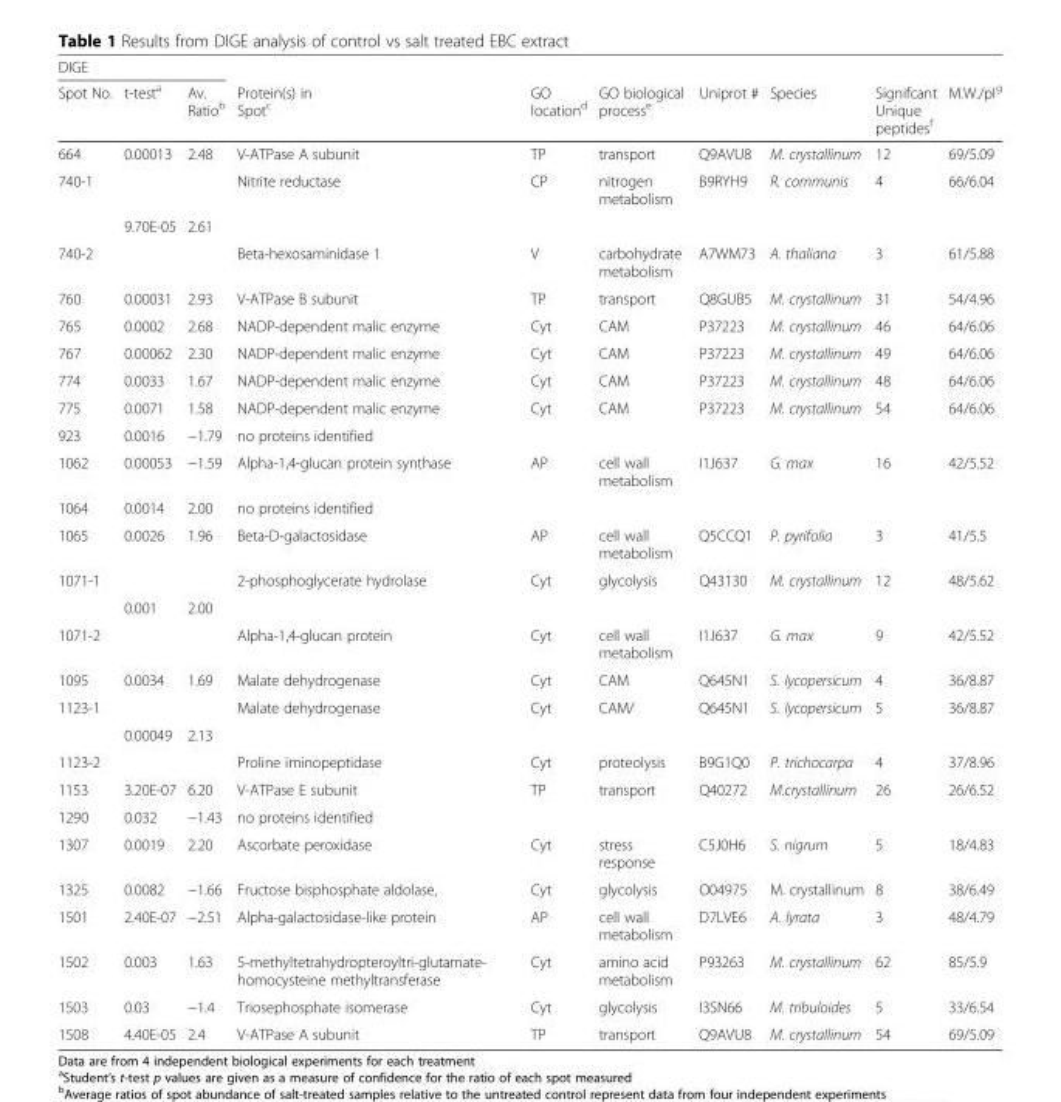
<table><thead><tr><td colspan="3">DIGE</td><td rowspan="2">Protein(s) in Spot<sup>c</sup></td><td rowspan="2">GO location<sup>d</sup></td><td rowspan="2">GO biological process<sup>e</sup></td><td rowspan="2">Uniprot #</td><td rowspan="2">Species</td><td rowspan="2">Signifcant Unique peptides<sup>f</sup></td><td rowspan="2">M.W./pI<sup>g</sup></td></tr><tr><td>Spot No.</td><td>t-test<sup>a</sup></td><td>Av. Ratio<sup>b</sup></td></tr></thead><tbody><tr><td>664</td><td>0.00013</td><td>2.48</td><td>V-ATPase A subunit</td><td>TP</td><td>transport</td><td>Q9AVU8</td><td>M. crystallinum</td><td>12</td><td>69/5.09</td></tr><tr><td rowspan="2">740-1</td><td></td><td></td><td>Nitrite reductase</td><td>CP</td><td>nitrogen metabolism</td><td>B9RYH9</td><td>R. communis</td><td>4</td><td>66/6.04</td></tr><tr><td>9.70E-05</td><td>2.61</td><td></td><td></td><td></td><td></td><td></td><td></td><td></td></tr><tr><td>740-2</td><td></td><td></td><td>Beta-hexosaminidase 1</td><td>V</td><td>carbohydrate metabolism</td><td>A7WM73</td><td>A. thaliana</td><td>3</td><td>61/5.88</td></tr><tr><td>760</td><td>0.00031</td><td>2.93</td><td>V-ATPase B subunit</td><td>TP</td><td>transport</td><td>Q8GUB5</td><td>M. crystallinum</td><td>31</td><td>54/4.96</td></tr><tr><td>765</td><td>0.0002</td><td>2.68</td><td>NADP-dependent malic enzyme</td><td>Cyt</td><td>CAM</td><td>P37223</td><td>M. crystallinum</td><td>46</td><td>64/6.06</td></tr><tr><td>767</td><td>0.00062</td><td>2.30</td><td>NADP-dependent malic enzyme</td><td>Cyt</td><td>CAM</td><td>P37223</td><td>M. crystallinum</td><td>49</td><td>64/6.06</td></tr><tr><td>774</td><td>0.0033</td><td>1.67</td><td>NADP-dependent malic enzyme</td><td>Cyt</td><td>CAM</td><td>P37223</td><td>M. crystallinum</td><td>48</td><td>64/6.06</td></tr><tr><td>775</td><td>0.0071</td><td>1.58</td><td>NADP-dependent malic enzyme</td><td>Cyt</td><td>CAM</td><td>P37223</td><td>M. crystallinum</td><td>54</td><td>64/6.06</td></tr><tr><td>923</td><td>0.0016</td><td>−1.79</td><td>no proteins identified</td><td></td><td></td><td></td><td></td><td></td><td></td></tr><tr><td>1062</td><td>0.00053</td><td>−1.59</td><td>Alpha-1,4-glucan protein synthase</td><td>AP</td><td>cell wall metabolism</td><td>I1J637</td><td>G. max</td><td>16</td><td>42/5.52</td></tr><tr><td>1064</td><td>0.0014</td><td>2.00</td><td>no proteins identified</td><td></td><td></td><td></td><td></td><td></td><td></td></tr><tr><td>1065</td><td>0.0026</td><td>1.96</td><td>Beta-D-galactosidase</td><td>AP</td><td>cell wall metabolism</td><td>Q5CCQ1</td><td>P. pyrifolia</td><td>3</td><td>41/5.5</td></tr><tr><td rowspan="2">1071-1</td><td></td><td></td><td>2-phosphoglycerate hydrolase</td><td>Cyt</td><td>glycolysis</td><td>Q43130</td><td>M. crystallinum</td><td>12</td><td>48/5.62</td></tr><tr><td>0.001</td><td>2.00</td><td></td><td></td><td></td><td></td><td></td><td></td><td></td></tr><tr><td>1071-2</td><td></td><td></td><td>Alpha-1,4-glucan protein</td><td>Cyt</td><td>cell wall metabolism</td><td>I1J637</td><td>G. max</td><td>9</td><td>42/5.52</td></tr><tr><td>1095</td><td>0.0034</td><td>1.69</td><td>Malate dehydrogenase</td><td>Cyt</td><td>CAM</td><td>Q645N1</td><td>S. lycopersicum</td><td>4</td><td>36/8.87</td></tr><tr><td rowspan="2">1123-1</td><td></td><td></td><td>Malate dehydrogenase</td><td>Cyt</td><td>CAM/</td><td>Q645N1</td><td>S. lycopersicum</td><td>5</td><td>36/8.87</td></tr><tr><td>0.00049</td><td>2.13</td><td></td><td></td><td></td><td></td><td></td><td></td><td></td></tr><tr><td>1123-2</td><td></td><td></td><td>Proline iminopeptidase</td><td>Cyt</td><td>proteolysis</td><td>B9G1Q0</td><td>P. trichocarpa</td><td>4</td><td>37/8.96</td></tr><tr><td>1153</td><td>3.20E-07</td><td>6.20</td><td>V-ATPase E subunit</td><td>TP</td><td>transport</td><td>Q40272</td><td>M.crystallinum</td><td>26</td><td>26/6.52</td></tr><tr><td>1290</td><td>0.032</td><td>−1.43</td><td>no proteins identified</td><td></td><td></td><td></td><td></td><td></td><td></td></tr><tr><td>1307</td><td>0.0019</td><td>2.20</td><td>Ascorbate peroxidase</td><td>Cyt</td><td>stress response</td><td>C5J0H6</td><td>S. nigrum</td><td>5</td><td>18/4.83</td></tr><tr><td>1325</td><td>0.0082</td><td>−1.66</td><td>Fructose bisphosphate aldolase,</td><td>Cyt</td><td>glycolysis</td><td>O04975</td><td>M. crystallinum</td><td>8</td><td>38/6.49</td></tr><tr><td>1501</td><td>2.40E-07</td><td>−2.51</td><td>Alpha-galactosidase-like protein</td><td>AP</td><td>cell wall metabolism</td><td>D7LVE6</td><td>A. lyrata</td><td>3</td><td>48/4.79</td></tr><tr><td>1502</td><td>0.003</td><td>1.63</td><td>5-methyltetrahydropteroyltri-glutamate- homocysteine methyltransferase</td><td>Cyt</td><td>amino acid metabolism</td><td>P93263</td><td>M. crystallinum</td><td>62</td><td>85/5.9</td></tr><tr><td>1503</td><td>0.03</td><td>−1.4</td><td>Triosephosphate isomerase</td><td>Cyt</td><td>glycolysis</td><td>I3SN66</td><td>M. tribuloides</td><td>5</td><td>33/6.54</td></tr><tr><td>1508</td><td>4.40E-05</td><td>2.4</td><td>V-ATPase A subunit</td><td>TP</td><td>transport</td><td>Q9AVU8</td><td>M. crystallinum</td><td>54</td><td>69/5.09</td></tr></tbody></table>